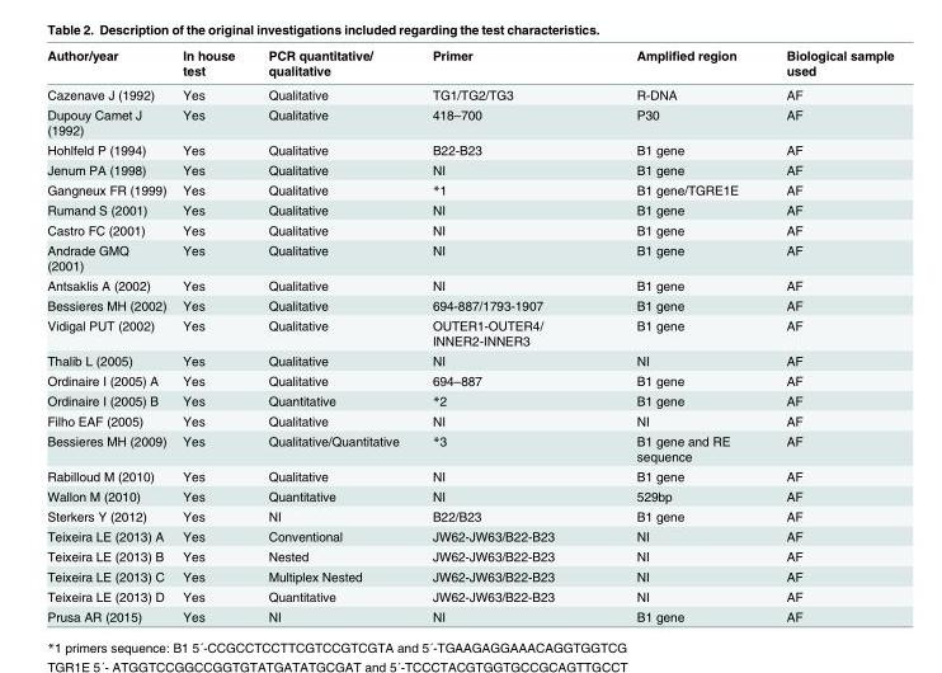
<table><thead><tr><td>Author/year</td><td>In house test</td><td>PCR quantitative/ qualitative</td><td>Primer</td><td>Amplified region</td><td>Biological sample used</td></tr></thead><tbody><tr><td>Cazenave J (1992)</td><td>Yes</td><td>Qualitative</td><td>TG1/TG2/TG3</td><td>R-DNA</td><td>AF</td></tr><tr><td>Dupouy Camet J (1992)</td><td>Yes</td><td>Qualitative</td><td>418–700</td><td>P30</td><td>AF</td></tr><tr><td>Hohlfeld P (1994)</td><td>Yes</td><td>Qualitative</td><td>B22-B23</td><td>B1 gene</td><td>AF</td></tr><tr><td>Jenum PA (1998)</td><td>Yes</td><td>Qualitative</td><td>NI</td><td>B1 gene</td><td>AF</td></tr><tr><td>Gangneux FR (1999)</td><td>Yes</td><td>Qualitative</td><td>*1</td><td>B1 gene/TGRE1E</td><td>AF</td></tr><tr><td>Rumand S (2001)</td><td>Yes</td><td>Qualitative</td><td>NI</td><td>B1 gene</td><td>AF</td></tr><tr><td>Castro FC (2001)</td><td>Yes</td><td>Qualitative</td><td>NI</td><td>B1 gene</td><td>AF</td></tr><tr><td>Andrade GMQ (2001)</td><td>Yes</td><td>Qualitative</td><td>NI</td><td>B1 gene</td><td>AF</td></tr><tr><td>Antsaklis A (2002)</td><td>Yes</td><td>Qualitative</td><td>NI</td><td>B1 gene</td><td>AF</td></tr><tr><td>Bessieres MH (2002)</td><td>Yes</td><td>Qualitative</td><td>694-887/1793-1907</td><td>B1 gene</td><td>AF</td></tr><tr><td>Vidigal PUT (2002)</td><td>Yes</td><td>Qualitative</td><td>OUTER1-OUTER4/ INNER2-INNER3</td><td>B1 gene</td><td>AF</td></tr><tr><td>Thalib L (2005)</td><td>Yes</td><td>Qualitative</td><td>NI</td><td>NI</td><td>AF</td></tr><tr><td>Ordinaire I (2005) A</td><td>Yes</td><td>Qualitative</td><td>694–887</td><td>B1 gene</td><td>AF</td></tr><tr><td>Ordinaire I (2005) B</td><td>Yes</td><td>Quantitative</td><td>*2</td><td>B1 gene</td><td>AF</td></tr><tr><td>Filho EAF (2005)</td><td>Yes</td><td>Qualitative</td><td>NI</td><td>NI</td><td>AF</td></tr><tr><td>Bessieres MH (2009)</td><td>Yes</td><td>Qualitative/Quantitative</td><td>*3</td><td>B1 gene and RE sequence</td><td>AF</td></tr><tr><td>Rabilloud M (2010)</td><td>Yes</td><td>Qualitative</td><td>NI</td><td>B1 gene</td><td>AF</td></tr><tr><td>Wallon M (2010)</td><td>Yes</td><td>Quantitative</td><td>NI</td><td>529bp</td><td>AF</td></tr><tr><td>Sterkers Y (2012)</td><td>Yes</td><td>NI</td><td>B22/B23</td><td>B1 gene</td><td>AF</td></tr><tr><td>Teixeira LE (2013) A</td><td>Yes</td><td>Conventional</td><td>JW62-JW63/B22-B23</td><td>NI</td><td>AF</td></tr><tr><td>Teixeira LE (2013) B</td><td>Yes</td><td>Nested</td><td>JW62-JW63/B22-B23</td><td>NI</td><td>AF</td></tr><tr><td>Teixeira LE (2013) C</td><td>Yes</td><td>Multiplex Nested</td><td>JW62-JW63/B22-B23</td><td>NI</td><td>AF</td></tr><tr><td>Teixeira LE (2013) D</td><td>Yes</td><td>Quantitative</td><td>JW62-JW63/B22-B23</td><td>NI</td><td>AF</td></tr><tr><td>Prusa AR (2015)</td><td>Yes</td><td>NI</td><td>NI</td><td>B1 gene</td><td>AF</td></tr></tbody></table>